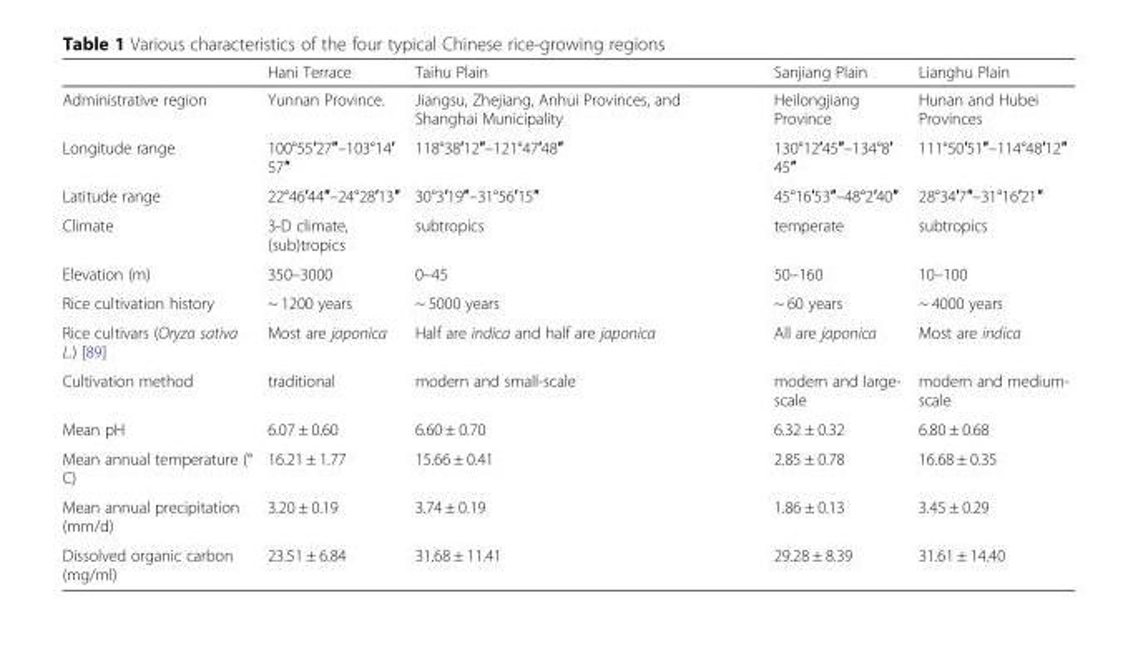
<table><thead><tr><td></td><td>Hani Terrace</td><td>Taihu Plain</td><td>Sanjiang Plain</td><td>Lianghu Plain</td></tr></thead><tbody><tr><td>Administrative region</td><td>Yunnan Province.</td><td>Jiangsu, Zhejiang, Anhui Provinces, and Shanghai Municipality</td><td>Heilongjiang Province</td><td>Hunan and Hubei Provinces</td></tr><tr><td>Longitude range</td><td>100°55′27″–103°14′ 57″</td><td>118°38′12″–121°47′48″</td><td>130°12′45″–134°8′ 45″</td><td>111°50′51″–114°48′12″</td></tr><tr><td>Latitude range</td><td>22°46′44″–24°28′13″</td><td>30°3′19″–31°56′15″</td><td>45°16′53″–48°2′40″</td><td>28°34′7″–31°16′21″</td></tr><tr><td>Climate</td><td>3-D climate, (sub)tropics</td><td>subtropics</td><td>temperate</td><td>subtropics</td></tr><tr><td>Elevation (m)</td><td>350–3000</td><td>0–45</td><td>50–160</td><td>10–100</td></tr><tr><td>Rice cultivation history</td><td>~ 1200 years</td><td>~ 5000 years</td><td>~ 60 years</td><td>~ 4000 years</td></tr><tr><td>Rice cultivars (Oryza sativa L.) [89]</td><td>Most are japonica</td><td>Half are indica and half are japonica</td><td>All are japonica</td><td>Most are indica</td></tr><tr><td>Cultivation method</td><td>traditional</td><td>modern and small-scale</td><td>modern and large- scale</td><td>modern and medium- scale</td></tr><tr><td>Mean pH</td><td>6.07 ± 0.60</td><td>6.60 ± 0.70</td><td>6.32 ± 0.32</td><td>6.80 ± 0.68</td></tr><tr><td>Mean annual temperature (° C)</td><td>16.21 ± 1.77</td><td>15.66 ± 0.41</td><td>2.85 ± 0.78</td><td>16.68 ± 0.35</td></tr><tr><td>Mean annual precipitation (mm/d)</td><td>3.20 ± 0.19</td><td>3.74 ± 0.19</td><td>1.86 ± 0.13</td><td>3.45 ± 0.29</td></tr><tr><td>Dissolved organic carbon (mg/ml)</td><td>23.51 ± 6.84</td><td>31.68 ± 11.41</td><td>29.28 ± 8.39</td><td>31.61 ± 14.40</td></tr></tbody></table>